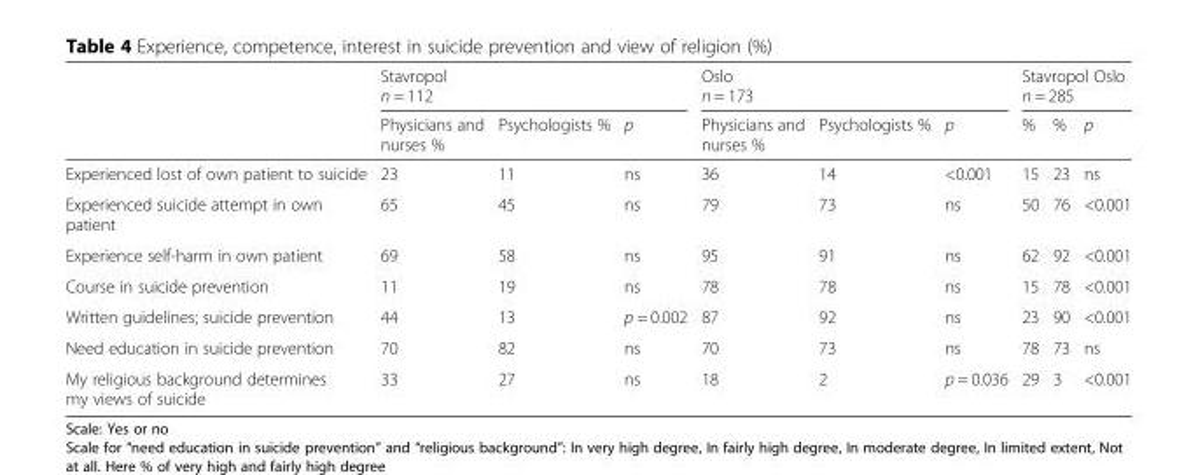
<table><thead><tr><td rowspan="3"></td><td rowspan="2" colspan="3">Stavropol n = 112</td><td rowspan="2" colspan="3">Oslo n = 173</td><td rowspan="2" colspan="3">Stavropol Oslo n = 285</td></tr><tr></tr><tr><td>Physicians and nurses %</td><td>Psychologists %</td><td>p</td><td>Physicians and nurses %</td><td>Psychologists %</td><td>p</td><td>%</td><td>%</td><td>p</td></tr></thead><tbody><tr><td>Experienced lost of own patient to suicide</td><td>23</td><td>11</td><td>ns</td><td>36</td><td>14</td><td>&lt;0.001</td><td>15</td><td>23</td><td>ns</td></tr><tr><td>Experienced suicide attempt in own patient</td><td>65</td><td>45</td><td>ns</td><td>79</td><td>73</td><td>ns</td><td>50</td><td>76</td><td>&lt;0.001</td></tr><tr><td>Experience self-harm in own patient</td><td>69</td><td>58</td><td>ns</td><td>95</td><td>91</td><td>ns</td><td>62</td><td>92</td><td>&lt;0.001</td></tr><tr><td>Course in suicide prevention</td><td>11</td><td>19</td><td>ns</td><td>78</td><td>78</td><td>ns</td><td>15</td><td>78</td><td>&lt;0.001</td></tr><tr><td>Written guidelines; suicide prevention</td><td>44</td><td>13</td><td>p = 0.002</td><td>87</td><td>92</td><td>ns</td><td>23</td><td>90</td><td>&lt;0.001</td></tr><tr><td>Need education in suicide prevention</td><td>70</td><td>82</td><td>ns</td><td>70</td><td>73</td><td>ns</td><td>78</td><td>73</td><td>ns</td></tr><tr><td>My religious background determines my views of suicide</td><td>33</td><td>27</td><td>ns</td><td>18</td><td>2</td><td>p = 0.036</td><td>29</td><td>3</td><td>&lt;0.001</td></tr></tbody></table>